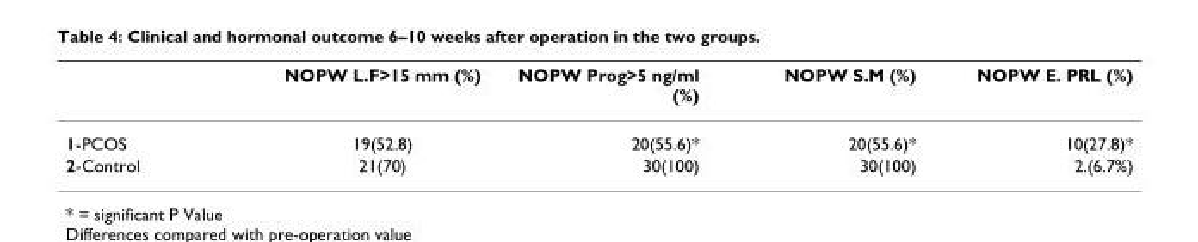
<table><thead><tr><td></td><td>NOPW L.F&gt;15 mm (%)</td><td>NOPW Prog&gt;5 ng/ml (%)</td><td>NOPW S.M (%)</td><td>NOPW E. PRL (%)</td></tr></thead><tbody><tr><td>1-PCOS</td><td>19(52.8)</td><td>20(55.6)*</td><td>20(55.6)*</td><td>10(27.8)*</td></tr><tr><td>2-Control</td><td>21(70)</td><td>30(100)</td><td>30(100)</td><td>2.(6.7%)</td></tr></tbody></table>